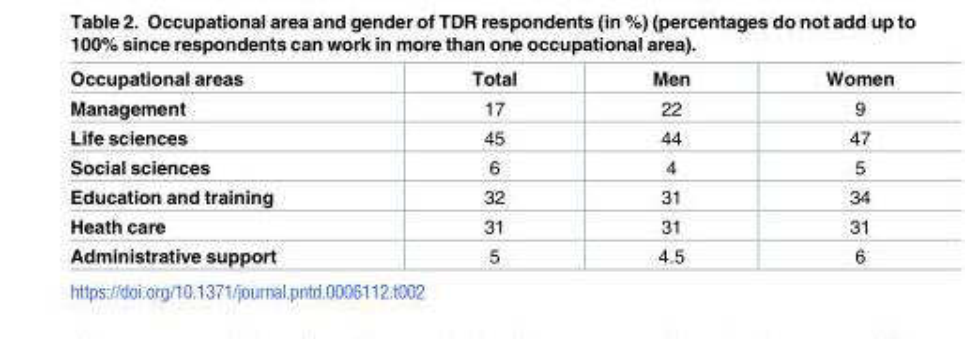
<table><thead><tr><td>Occupational areas</td><td>Total</td><td>Men</td><td>Women</td></tr></thead><tbody><tr><td>Management</td><td>17</td><td>22</td><td>9</td></tr><tr><td>Life sciences</td><td>45</td><td>44</td><td>47</td></tr><tr><td>Social sciences</td><td>6</td><td>4</td><td>5</td></tr><tr><td>Education and training</td><td>32</td><td>31</td><td>34</td></tr><tr><td>Heath care</td><td>31</td><td>31</td><td>31</td></tr><tr><td>Administrative support</td><td>5</td><td>4.5</td><td>6</td></tr></tbody></table>